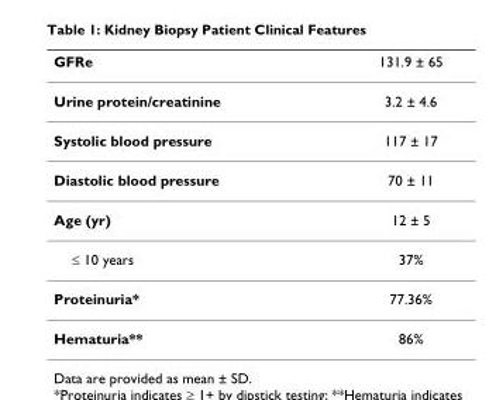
<table><thead><tr><td>GFRe</td><td>131.9 ± 65</td></tr></thead><tbody><tr><td>Urine protein/creatinine</td><td>3.2 ± 4.6</td></tr><tr><td>Systolic blood pressure</td><td>117 ± 17</td></tr><tr><td>Diastolic blood pressure</td><td>70 ± 11</td></tr><tr><td>Age (yr)</td><td>12 ± 5</td></tr><tr><td>≤ 10 years</td><td>37%</td></tr><tr><td>Proteinuria*</td><td>77.36%</td></tr><tr><td>Hematuria**</td><td>86%</td></tr></tbody></table>